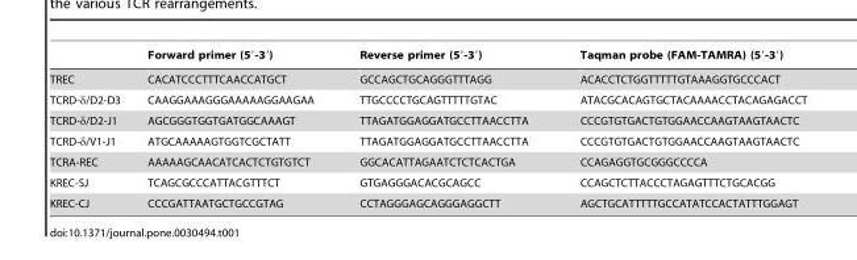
<table><thead><tr><td></td><td>Forward primer (5′-3′)</td><td>Reverse primer (5′-3′)</td><td>Taqman probe (FAM-TAMRA) (5′-3′)</td></tr></thead><tbody><tr><td>TREC</td><td>CACATCCCTTTCAACCATGCT</td><td>GCCAGCTGCAGGGTTTAGG</td><td>ACACCTCTGGTTTTTGTAAAGGTGCCCACT</td></tr><tr><td>TCRD-δ/D2-D3</td><td>CAAGGAAAGGGAAAAAGGAAGAA</td><td>TTGCCCCTGCAGTTTTTGTAC</td><td>ATACGCACAGTGCTACAAAACCTACAGAGACCT</td></tr><tr><td>TCRD-δ/D2-J1</td><td>AGCGGGTGGTGATGGCAAAGT</td><td>TTAGATGGAGGATGCCTTAACCTTA</td><td>CCCGTGTGACTGTGGAACCAAGTAAGTAACTC</td></tr><tr><td>TCRD-δ/V1-J1</td><td>ATGCAAAAAGTGGTCGCTATT</td><td>TTAGATGGAGGATGCCTTAACCTTA</td><td>CCCGTGTGACTGTGGAACCAAGTAAGTAACTC</td></tr><tr><td>TCRA-REC</td><td>AAAAAGCAACATCACTCTGTGTCT</td><td>GGCACATTAGAATCTCTCACTGA</td><td>CCAGAGGTGCGGGCCCCA</td></tr><tr><td>KREC-SJ</td><td>TCAGCGCCCATTACGTTTCT</td><td>GTGAGGGACACGCAGCC</td><td>CCAGCTCTTACCCTAGAGTTTCTGCACGG</td></tr><tr><td>KREC-CJ</td><td>CCCGATTAATGCTGCCGTAG</td><td>CCTAGGGAGCAGGGAGGCTT</td><td>AGCTGCATTTTTGCCATATCCACTATTTGGAGT</td></tr></tbody></table>